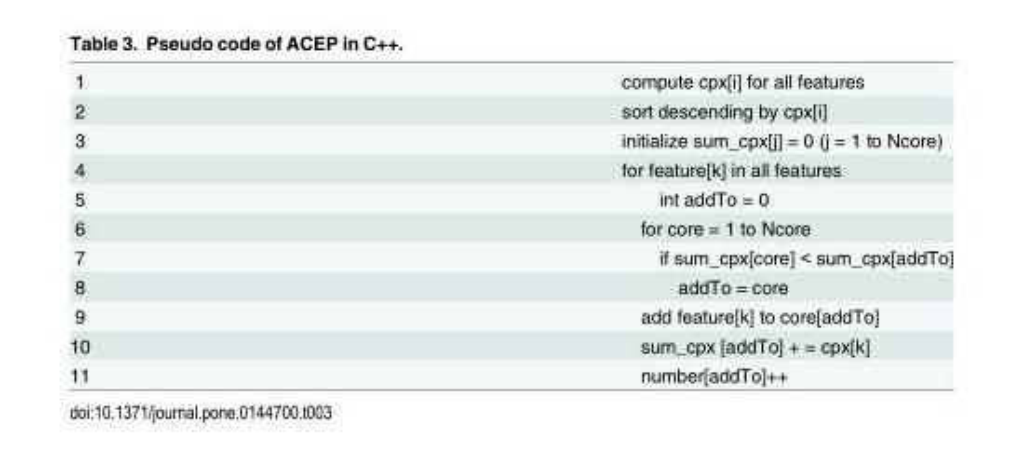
<table><tbody><tr><td>1</td><td>compute cpx[i] for all features</td></tr><tr><td>2</td><td>sort descending by cpx[i]</td></tr><tr><td>3</td><td>initialize sum_cpx[j] = 0 (j = 1 to Ncore)</td></tr><tr><td>4</td><td>for feature[k] in all features</td></tr><tr><td>5</td><td>int addTo = 0</td></tr><tr><td>6</td><td>for core = 1 to Ncore</td></tr><tr><td>7</td><td>if sum_cpx[core] &lt; sum_cpx[addTo]</td></tr><tr><td>8</td><td>addTo = core</td></tr><tr><td>9</td><td>add feature[k] to core[addTo]</td></tr><tr><td>10</td><td>sum_cpx [addTo] + = cpx[k]</td></tr><tr><td>11</td><td>number[addTo]++</td></tr></tbody></table>